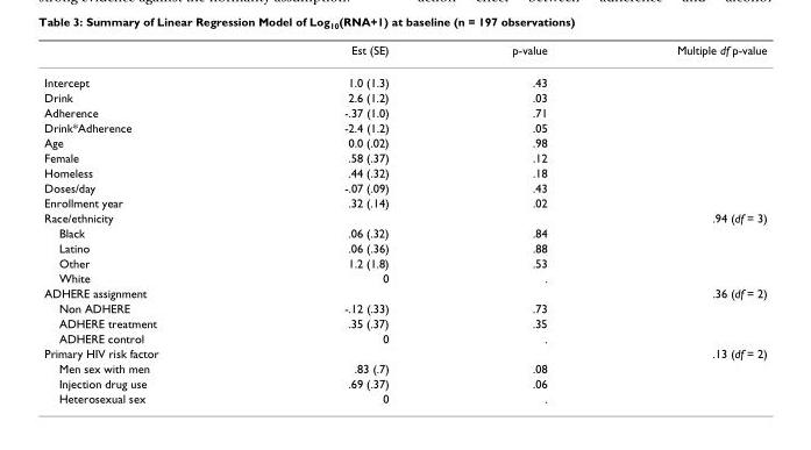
<table><thead><tr><td></td><td>Est (SE)</td><td>p-value</td><td>Multiple df p-value</td></tr></thead><tbody><tr><td>Intercept</td><td>1.0 (1.3)</td><td>.43</td><td></td></tr><tr><td>Drink</td><td>2.6 (1.2)</td><td>.03</td><td></td></tr><tr><td>Adherence</td><td>-.37 (1.0)</td><td>.71</td><td></td></tr><tr><td>Drink*Adherence</td><td>-2.4 (1.2)</td><td>.05</td><td></td></tr><tr><td>Age</td><td>0.0 (.02)</td><td>.98</td><td></td></tr><tr><td>Female</td><td>.58 (.37)</td><td>.12</td><td></td></tr><tr><td>Homeless</td><td>.44 (.32)</td><td>.18</td><td></td></tr><tr><td>Doses/day</td><td>-.07 (.09)</td><td>.43</td><td></td></tr><tr><td>Enrollment year</td><td>.32 (.14)</td><td>.02</td><td></td></tr><tr><td>Race/ethnicity</td><td></td><td></td><td>.94 (df = 3)</td></tr><tr><td>Black</td><td>.06 (.32)</td><td>.84</td><td></td></tr><tr><td>Latino</td><td>.06 (.36)</td><td>.88</td><td></td></tr><tr><td>Other</td><td>1.2 (1.8)</td><td>.53</td><td></td></tr><tr><td>White</td><td>0</td><td>.</td><td></td></tr><tr><td>ADHERE assignment</td><td></td><td></td><td>.36 (df = 2)</td></tr><tr><td>Non ADHERE</td><td>-.12 (.33)</td><td>.73</td><td></td></tr><tr><td>ADHERE treatment</td><td>.35 (.37)</td><td>.35</td><td></td></tr><tr><td>ADHERE control</td><td>0</td><td>.</td><td></td></tr><tr><td>Primary HIV risk factor</td><td></td><td></td><td>.13 (df = 2)</td></tr><tr><td>Men sex with men</td><td>.83 (.7)</td><td>.08</td><td></td></tr><tr><td>Injection drug use</td><td>.69 (.37)</td><td>.06</td><td></td></tr><tr><td>Heterosexual sex</td><td>0</td><td>.</td><td></td></tr></tbody></table>